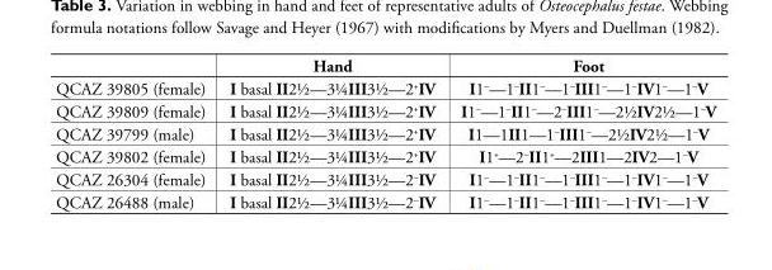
<table><thead><tr><td></td><td>Hand</td><td>Foot</td></tr></thead><tbody><tr><td>QCAZ 39805 (female)</td><td>I basal II2½—3¼III3½—2+IV</td><td>I1–—1–II1–—1–III1–—1–IV1–—1–V</td></tr><tr><td>QCAZ 39809 (female)</td><td>I basal II2½—3¼III3½—2+IV</td><td>I1–—1–II1–—2–III1–—2½IV2½—1–V</td></tr><tr><td>QCAZ 39799 (male)</td><td>I basal II2½—3¼III3½—2+IV</td><td>I1—1II1—1–III1–—2½IV2½—1–V</td></tr><tr><td>QCAZ 39802 (female)</td><td>I basal II2½—3¼III3½—2+IV</td><td>I1+—2–II1+—2III1—2IV2—1–V</td></tr><tr><td>QCAZ 26304 (female)</td><td>I basal II2½—3¼III3½—2–IV</td><td>I1–—1–II1–—1–III1–—1–IV1–—1–V</td></tr><tr><td>QCAZ 26488 (male)</td><td>I basal II2½—3¼III3½—2–IV</td><td>I1–—1–II1–—1–III1–—1–IV1–—1–V</td></tr></tbody></table>